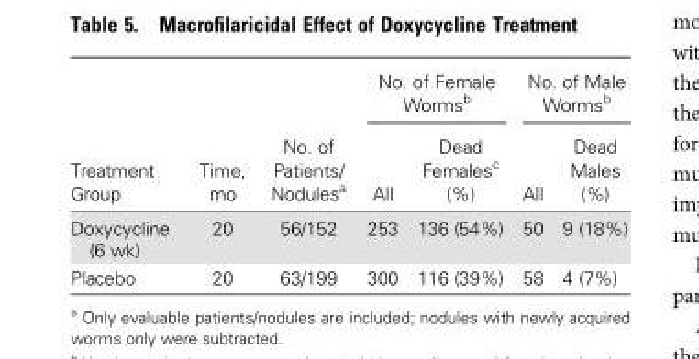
<table><thead><tr><td rowspan="2">Treatment Group</td><td rowspan="2">Time, mo</td><td rowspan="2">No. of Patients/ Nodules<sup>a</sup></td><td colspan="2">No. of Female Worms<sup>b</sup></td><td colspan="2">No. of Male Worms<sup>b</sup></td></tr><tr><td>All</td><td>Dead Females<sup>c</sup> (%)</td><td>All</td><td>Dead Males (%)</td></tr></thead><tbody><tr><td>Doxycycline (6 wk)</td><td>20</td><td>56/152</td><td>253</td><td>136 (54%)</td><td>50</td><td>9 (18%)</td></tr><tr><td>Placebo</td><td>20</td><td>63/199</td><td>300</td><td>116 (39%)</td><td>58</td><td>4 (7%)</td></tr></tbody></table>